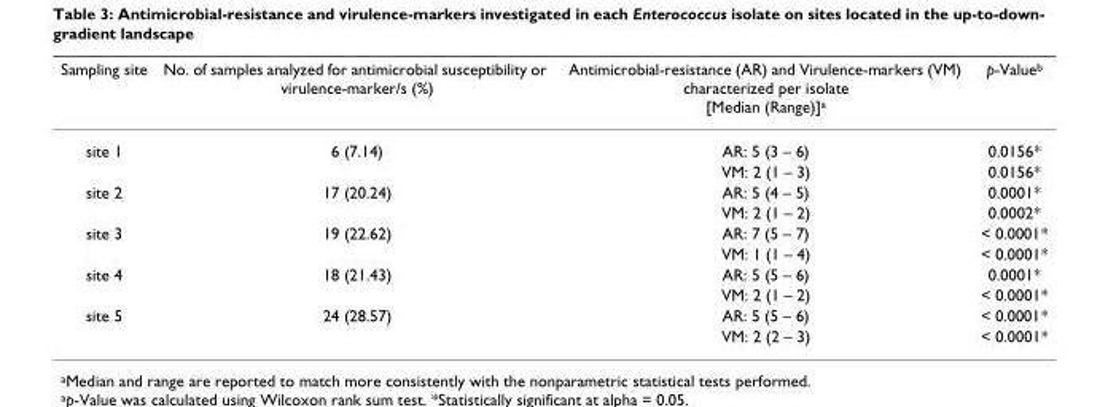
<table><thead><tr><td>Sampling site</td><td>No. of samples analyzed for antimicrobial susceptibility or virulence-marker/s (%)</td><td>Antimicrobial-resistance (AR) and Virulence-markers (VM) characterized per isolate [Median (Range)]<sup>a</sup></td><td>p-Value<sup>b</sup></td></tr></thead><tbody><tr><td rowspan="2">site 1</td><td>6 (7.14)</td><td>AR: 5 (3 – 6)</td><td>0.0156*</td></tr><tr><td></td><td>VM: 2 (1 – 3)</td><td>0.0156*</td></tr><tr><td rowspan="2">site 2</td><td>17 (20.24)</td><td>AR: 5 (4 – 5)</td><td>0.0001*</td></tr><tr><td></td><td>VM: 2 (1 – 2)</td><td>0.0002*</td></tr><tr><td rowspan="2">site 3</td><td>19 (22.62)</td><td>AR: 7 (5 – 7)</td><td>&lt; 0.0001*</td></tr><tr><td></td><td>VM: 1 (1 – 4)</td><td>&lt; 0.0001*</td></tr><tr><td rowspan="2">site 4</td><td>18 (21.43)</td><td>AR: 5 (5 – 6)</td><td>0.0001*</td></tr><tr><td></td><td>VM: 2 (1 – 2)</td><td>&lt; 0.0001*</td></tr><tr><td rowspan="2">site 5</td><td>24 (28.57)</td><td>AR: 5 (5 – 6)</td><td>&lt; 0.0001*</td></tr><tr><td></td><td>VM: 2 (2 – 3)</td><td>&lt; 0.0001*</td></tr></tbody></table>